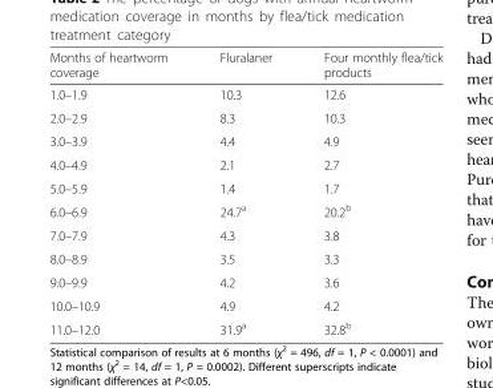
<table><thead><tr><td>Months of heartworm coverage</td><td>Fluralaner</td><td>Four monthly flea/tick products</td></tr></thead><tbody><tr><td>1.0–1.9</td><td>10.3</td><td>12.6</td></tr><tr><td>2.0–2.9</td><td>8.3</td><td>10.3</td></tr><tr><td>3.0–3.9</td><td>4.4</td><td>4.9</td></tr><tr><td>4.0–4.9</td><td>2.1</td><td>2.7</td></tr><tr><td>5.0–5.9</td><td>1.4</td><td>1.7</td></tr><tr><td>6.0–6.9</td><td>24.7<sup>a</sup></td><td>20.2<sup>b</sup></td></tr><tr><td>7.0–7.9</td><td>4.3</td><td>3.8</td></tr><tr><td>8.0–8.9</td><td>3.5</td><td>3.3</td></tr><tr><td>9.0–9.9</td><td>4.2</td><td>3.6</td></tr><tr><td>10.0–10.9</td><td>4.9</td><td>4.2</td></tr><tr><td>11.0–12.0</td><td>31.9<sup>a</sup></td><td>32.8<sup>b</sup></td></tr></tbody></table>